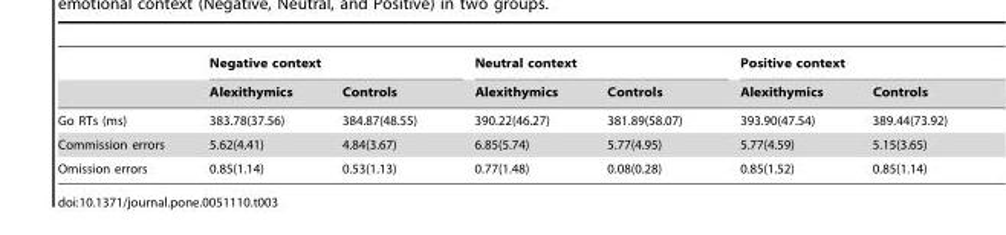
<table><thead><tr><td rowspan="2"></td><td colspan="2">Negative context</td><td colspan="2">Neutral context</td><td colspan="2">Positive context</td></tr><tr><td>Alexithymics</td><td>Controls</td><td>Alexithymics</td><td>Controls</td><td>Alexithymics</td><td>Controls</td></tr></thead><tbody><tr><td>Go RTs (ms)</td><td>383.78(37.56)</td><td>384.87(48.55)</td><td>390.22(46.27)</td><td>381.89(58.07)</td><td>393.90(47.54)</td><td>389.44(73.92)</td></tr><tr><td>Commission errors</td><td>5.62(4.41)</td><td>4.84(3.67)</td><td>6.85(5.74)</td><td>5.77(4.95)</td><td>5.77(4.59)</td><td>5.15(3.65)</td></tr><tr><td>Omission errors</td><td>0.85(1.14)</td><td>0.53(1.13)</td><td>0.77(1.48)</td><td>0.08(0.28)</td><td>0.85(1.52)</td><td>0.85(1.14)</td></tr></tbody></table>